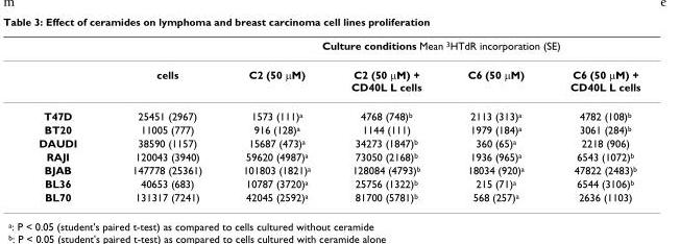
<table><thead><tr><td rowspan="2"></td><td rowspan="2">cells</td><td colspan="4">Culture conditions Mean 3HTdR incorporation (SE)</td></tr><tr><td>C2 (50 µM)</td><td>C2 (50 µM) + CD40L L cells</td><td>C6 (50 µM)</td><td>C6 (50 µM) + CD40L L cells</td></tr></thead><tbody><tr><td>T47D</td><td>25451 (2967)</td><td>1573 (111)a</td><td>4768 (748)b</td><td>2113 (313)a</td><td>4782 (108)b</td></tr><tr><td>BT20</td><td>11005 (777)</td><td>916 (128)a</td><td>1144 (111)</td><td>1979 (184)a</td><td>3061 (284)b</td></tr><tr><td>DAUDI</td><td>38590 (1157)</td><td>15687 (473)a</td><td>34273 (1847)b</td><td>360 (65)a</td><td>2218 (906)</td></tr><tr><td>RAJI</td><td>120043 (3940)</td><td>59620 (4987)a</td><td>73050 (2168)b</td><td>1936 (965)a</td><td>6543 (1072)b</td></tr><tr><td>BJAB</td><td>147778 (25361)</td><td>101803 (1821)a</td><td>128084 (4793)b</td><td>18034 (920)a</td><td>47822 (2483)b</td></tr><tr><td>BL36</td><td>40653 (683)</td><td>10787 (3720)a</td><td>25756 (1322)b</td><td>215 (71)a</td><td>6544 (3106)b</td></tr><tr><td>BL70</td><td>131317 (7241)</td><td>42045 (2592)a</td><td>81700 (5781)b</td><td>568 (257)a</td><td>2636 (1103)</td></tr></tbody></table>